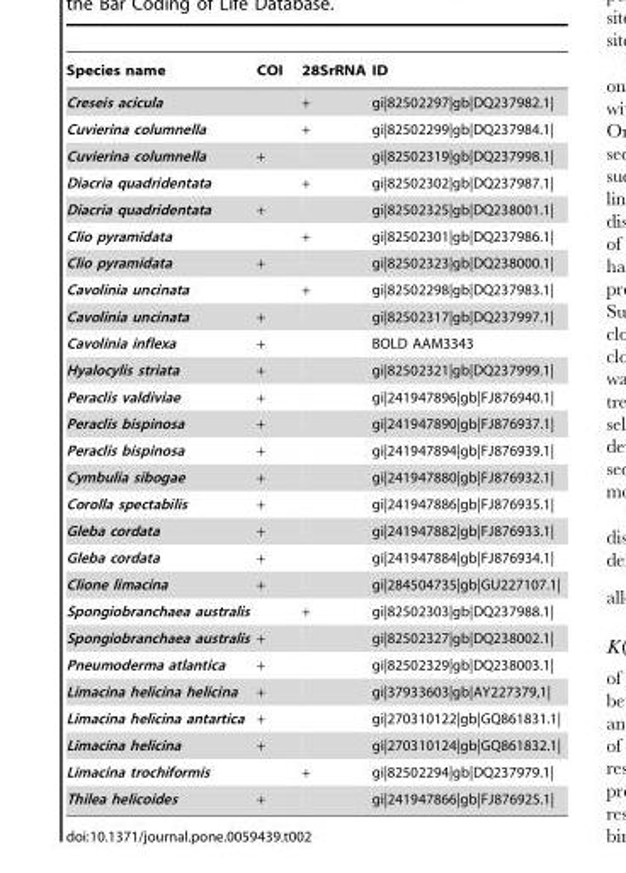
<table><thead><tr><td>Species name</td><td>COI</td><td>28SrRNA</td><td>ID</td></tr></thead><tbody><tr><td>Creseis acicula</td><td></td><td>+</td><td>gi|82502297|gb|DQ237982.1|</td></tr><tr><td>Cuvierina columnella</td><td></td><td>+</td><td>gi|82502299|gb|DQ237984.1|</td></tr><tr><td>Cuvierina columnella</td><td>+</td><td></td><td>gi|82502319|gb|DQ237998.1|</td></tr><tr><td>Diacria quadridentata</td><td></td><td>+</td><td>gi|82502302|gb|DQ237987.1|</td></tr><tr><td>Diacria quadridentata</td><td>+</td><td></td><td>gi|82502325|gb|DQ238001.1|</td></tr><tr><td>Clio pyramidata</td><td></td><td>+</td><td>gi|82502301|gb|DQ237986.1|</td></tr><tr><td>Clio pyramidata</td><td>+</td><td></td><td>gi|82502323|gb|DQ238000.1|</td></tr><tr><td>Cavolinia uncinata</td><td></td><td>+</td><td>gi|82502298|gb|DQ237983.1|</td></tr><tr><td>Cavolinia uncinata</td><td>+</td><td></td><td>gi|82502317|gb|DQ237997.1|</td></tr><tr><td>Cavolinia inflexa</td><td>+</td><td></td><td>BOLD AAM3343</td></tr><tr><td>Hyalocylis striata</td><td>+</td><td></td><td>gi|82502321|gb|DQ237999.1|</td></tr><tr><td>Peraclis valdiviae</td><td>+</td><td></td><td>gi|241947896|gb|FJ876940.1|</td></tr><tr><td>Peraclis bispinosa</td><td>+</td><td></td><td>gi|241947890|gb|FJ876937.1|</td></tr><tr><td>Peraclis bispinosa</td><td>+</td><td></td><td>gi|241947894|gb|FJ876939.1|</td></tr><tr><td>Cymbulia sibogae</td><td>+</td><td></td><td>gi|241947880|gb|FJ876932.1|</td></tr><tr><td>Corolla spectabilis</td><td>+</td><td></td><td>gi|241947886|gb|FJ876935.1|</td></tr><tr><td>Gleba cordata</td><td>+</td><td></td><td>gi|241947882|gb|FJ876933.1|</td></tr><tr><td>Gleba cordata</td><td>+</td><td></td><td>gi|241947884|gb|FJ876934.1|</td></tr><tr><td>Clione limacina</td><td>+</td><td></td><td>gi|284504735|gb|GU227107.1|</td></tr><tr><td>Spongiobranchaea australis</td><td></td><td>+</td><td>gi|82502303|gb|DQ237988.1|</td></tr><tr><td>Spongiobranchaea australis</td><td>+</td><td></td><td>gi|82502327|gb|DQ238002.1|</td></tr><tr><td>Pneumoderma atlantica</td><td>+</td><td></td><td>gi|82502329|gb|DQ238003.1|</td></tr><tr><td>Limacina helicina helicina</td><td>+</td><td></td><td>gi|37933603|gb|AY227379,1|</td></tr><tr><td>Limacina helicina antartica</td><td>+</td><td></td><td>gi|270310122|gb|GQ861831.1|</td></tr><tr><td>Limacina helicina</td><td>+</td><td></td><td>gi|270310124|gb|GQ861832.1|</td></tr><tr><td>Limacina trochiformis</td><td></td><td>+</td><td>gi|82502294|gb|DQ237979.1|</td></tr><tr><td>Thilea helicoides</td><td>+</td><td></td><td>gi|241947866|gb|FJ876925.1|</td></tr></tbody></table>